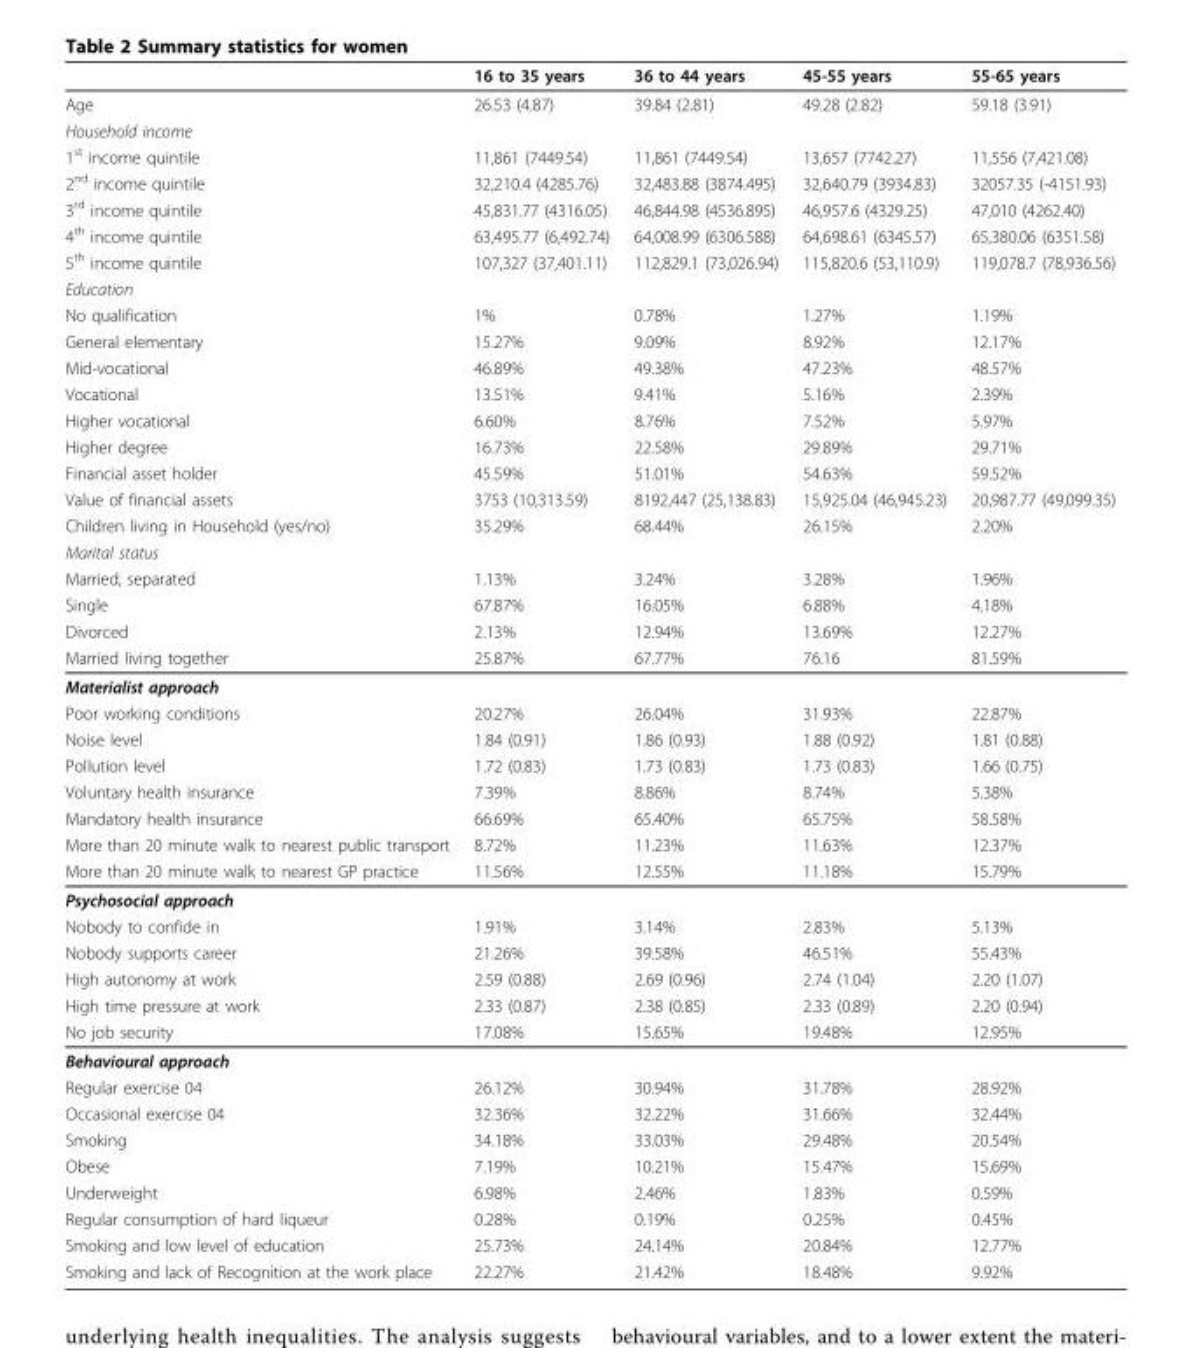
<table><thead><tr><td></td><td>16 to 35 years</td><td>36 to 44 years</td><td>45-55 years</td><td>55-65 years</td></tr></thead><tbody><tr><td>Age</td><td>26.53 (4.87)</td><td>39.84 (2.81)</td><td>49.28 (2.82)</td><td>59.18 (3.91)</td></tr><tr><td colspan="5">Household income</td></tr><tr><td>1<sup>st</sup> income quintile</td><td>11,861 (7449.54)</td><td>11,861 (7449.54)</td><td>13,657 (7742.27)</td><td>11,556 (7,421.08)</td></tr><tr><td>2<sup>nd</sup> income quintile</td><td>32,210.4 (4285.76)</td><td>32,483.88 (3874.495)</td><td>32,640.79 (3934.83)</td><td>32057.35 (-4151.93)</td></tr><tr><td>3<sup>rd</sup> income quintile</td><td>45,831.77 (4316.05)</td><td>46,844.98 (4536.895)</td><td>46,957.6 (4329.25)</td><td>47,010 (4262.40)</td></tr><tr><td>4<sup>th</sup> income quintile</td><td>63,495.77 (6,492.74)</td><td>64,008.99 (6306.588)</td><td>64,698.61 (6345.57)</td><td>65,380.06 (6351.58)</td></tr><tr><td>5<sup>th</sup> income quintile</td><td>107,327 (37,401.11)</td><td>112,829.1 (73,026.94)</td><td>115,820.6 (53,110.9)</td><td>119,078.7 (78,936.56)</td></tr><tr><td colspan="5">Education</td></tr><tr><td>No qualification</td><td>1%</td><td>0.78%</td><td>1.27%</td><td>1.19%</td></tr><tr><td>General elementary</td><td>15.27%</td><td>9.09%</td><td>8.92%</td><td>12.17%</td></tr><tr><td>Mid-vocational</td><td>46.89%</td><td>49.38%</td><td>47.23%</td><td>48.57%</td></tr><tr><td>Vocational</td><td>13.51%</td><td>9.41%</td><td>5.16%</td><td>2.39%</td></tr><tr><td>Higher vocational</td><td>6.60%</td><td>8.76%</td><td>7.52%</td><td>5.97%</td></tr><tr><td>Higher degree</td><td>16.73%</td><td>22.58%</td><td>29.89%</td><td>29.71%</td></tr><tr><td>Financial asset holder</td><td>45.59%</td><td>51.01%</td><td>54.63%</td><td>59.52%</td></tr><tr><td>Value of financial assets</td><td>3753 (10,313.59)</td><td>8192,447 (25,138.83)</td><td>15,925.04 (46,945.23)</td><td>20,987.77 (49,099.35)</td></tr><tr><td>Children living in Household (yes/no)</td><td>35.29%</td><td>68.44%</td><td>26.15%</td><td>2.20%</td></tr><tr><td colspan="5">Marital status</td></tr><tr><td>Married, separated</td><td>1.13%</td><td>3.24%</td><td>3.28%</td><td>1.96%</td></tr><tr><td>Single</td><td>67.87%</td><td>16.05%</td><td>6.88%</td><td>4.18%</td></tr><tr><td>Divorced</td><td>2.13%</td><td>12.94%</td><td>13.69%</td><td>12.27%</td></tr><tr><td>Married living together</td><td>25.87%</td><td>67.77%</td><td>76.16</td><td>81.59%</td></tr><tr><td colspan="5">Materialist approach</td></tr><tr><td>Poor working conditions</td><td>20.27%</td><td>26.04%</td><td>31.93%</td><td>22.87%</td></tr><tr><td>Noise level</td><td>1.84 (0.91)</td><td>1.86 (0.93)</td><td>1.88 (0.92)</td><td>1.81 (0.88)</td></tr><tr><td>Pollution level</td><td>1.72 (0.83)</td><td>1.73 (0.83)</td><td>1.73 (0.83)</td><td>1.66 (0.75)</td></tr><tr><td>Voluntary health insurance</td><td>7.39%</td><td>8.86%</td><td>8.74%</td><td>5.38%</td></tr><tr><td>Mandatory health insurance</td><td>66.69%</td><td>65.40%</td><td>65.75%</td><td>58.58%</td></tr><tr><td>More than 20 minute walk to nearest public transport</td><td>8.72%</td><td>11.23%</td><td>11.63%</td><td>12.37%</td></tr><tr><td>More than 20 minute walk to nearest GP practice</td><td>11.56%</td><td>12.55%</td><td>11.18%</td><td>15.79%</td></tr><tr><td colspan="5">Psychosocial approach</td></tr><tr><td>Nobody to confide in</td><td>1.91%</td><td>3.14%</td><td>2.83%</td><td>5.13%</td></tr><tr><td>Nobody supports career</td><td>21.26%</td><td>39.58%</td><td>46.51%</td><td>55.43%</td></tr><tr><td>High autonomy at work</td><td>2.59 (0.88)</td><td>2.69 (0.96)</td><td>2.74 (1.04)</td><td>2.20 (1.07)</td></tr><tr><td>High time pressure at work</td><td>2.33 (0.87)</td><td>2.38 (0.85)</td><td>2.33 (0.89)</td><td>2.20 (0.94)</td></tr><tr><td>No job security</td><td>17.08%</td><td>15.65%</td><td>19.48%</td><td>12.95%</td></tr><tr><td colspan="5">Behavioural approach</td></tr><tr><td>Regular exercise 04</td><td>26.12%</td><td>30.94%</td><td>31.78%</td><td>28.92%</td></tr><tr><td>Occasional exercise 04</td><td>32.36%</td><td>32.22%</td><td>31.66%</td><td>32.44%</td></tr><tr><td>Smoking</td><td>34.18%</td><td>33.03%</td><td>29.48%</td><td>20.54%</td></tr><tr><td>Obese</td><td>7.19%</td><td>10.21%</td><td>15.47%</td><td>15.69%</td></tr><tr><td>Underweight</td><td>6.98%</td><td>2.46%</td><td>1.83%</td><td>0.59%</td></tr><tr><td>Regular consumption of hard liqueur</td><td>0.28%</td><td>0.19%</td><td>0.25%</td><td>0.45%</td></tr><tr><td>Smoking and low level of education</td><td>25.73%</td><td>24.14%</td><td>20.84%</td><td>12.77%</td></tr><tr><td>Smoking and lack of Recognition at the work place</td><td>22.27%</td><td>21.42%</td><td>18.48%</td><td>9.92%</td></tr></tbody></table>